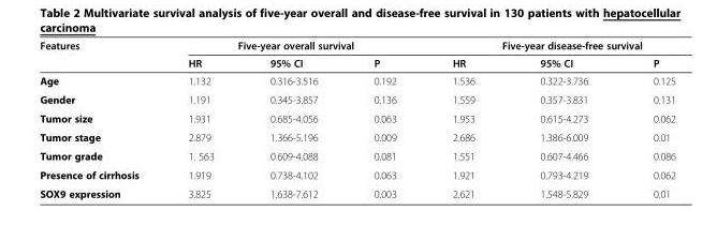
<table><thead><tr><td rowspan="2">Features</td><td colspan="3">Five-year overall survival</td><td colspan="3">Five-year disease-free survival</td></tr><tr><td>HR</td><td>95% CI</td><td>P</td><td>HR</td><td>95% CI</td><td>P</td></tr></thead><tbody><tr><td>Age</td><td>1.132</td><td>0.316-3.516</td><td>0.192</td><td>1.536</td><td>0.322-3.736</td><td>0.125</td></tr><tr><td>Gender</td><td>1.191</td><td>0.345-3.857</td><td>0.136</td><td>1.559</td><td>0.357-3.831</td><td>0.131</td></tr><tr><td>Tumor size</td><td>1.931</td><td>0.685-4.056</td><td>0.063</td><td>1.953</td><td>0.615-4.273</td><td>0.062</td></tr><tr><td>Tumor stage</td><td>2.879</td><td>1.366-5.196</td><td>0.009</td><td>2.686</td><td>1.386-6.009</td><td>0.01</td></tr><tr><td>Tumor grade</td><td>1. 563</td><td>0.609-4.088</td><td>0.081</td><td>1.551</td><td>0.607-4.466</td><td>0.086</td></tr><tr><td>Presence of cirrhosis</td><td>1.919</td><td>0.738-4.102</td><td>0.063</td><td>1.921</td><td>0.793-4.219</td><td>0.062</td></tr><tr><td>SOX9 expression</td><td>3.825</td><td>1.638-7.612</td><td>0.003</td><td>2.621</td><td>1.548-5.829</td><td>0.01</td></tr></tbody></table>